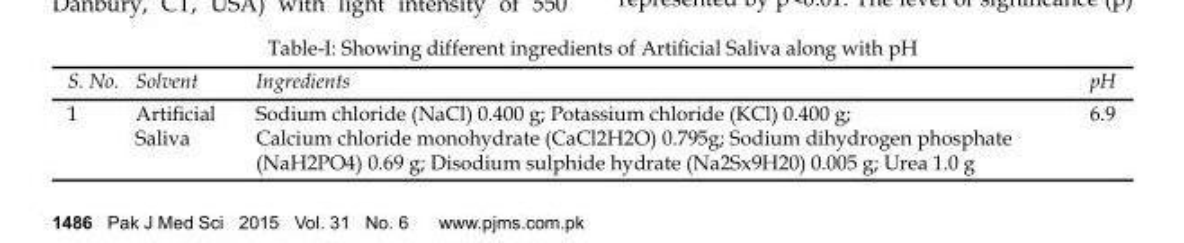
<table><thead><tr><td>S. No.</td><td>Solvent</td><td>Ingredients</td><td>pH</td></tr></thead><tbody><tr><td>1</td><td>Artificial Saliva</td><td>Sodium chloride (NaCl) 0.400 g; Potassium chloride (KCl) 0.400 g; Calcium chloride monohydrate (CaCl<sub>2</sub>H<sub>2</sub>O) 0.795g; Sodium dihydrogen phosphate (NaH<sub>2</sub>PO<sub>4</sub>) 0.69 g; Disodium sulphide hydrate (Na<sub>2</sub>Sx9H<sub>2</sub>0) 0.005 g; Urea 1.0 g</td><td>6.9</td></tr></tbody></table>